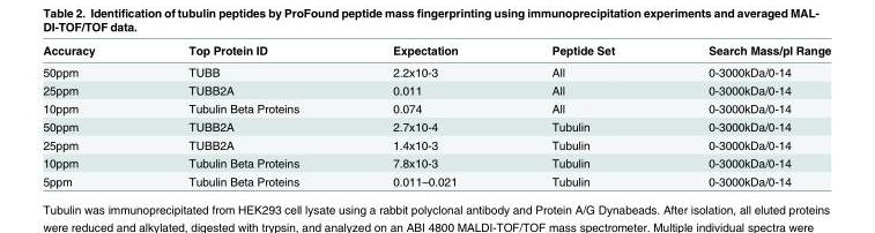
<table><thead><tr><td>Accuracy</td><td>Top Protein ID</td><td>Expectation</td><td>Peptide Set</td><td>Search Mass/pI Range</td></tr></thead><tbody><tr><td>50ppm</td><td>TUBB</td><td>2.2x10-3</td><td>All</td><td>0-3000kDa/0-14</td></tr><tr><td>25ppm</td><td>TUBB2A</td><td>0.011</td><td>All</td><td>0-3000kDa/0-14</td></tr><tr><td>10ppm</td><td>Tubulin Beta Proteins</td><td>0.074</td><td>All</td><td>0-3000kDa/0-14</td></tr><tr><td>50ppm</td><td>TUBB2A</td><td>2.7x10-4</td><td>Tubulin</td><td>0-3000kDa/0-14</td></tr><tr><td>25ppm</td><td>TUBB2A</td><td>1.4x10-3</td><td>Tubulin</td><td>0-3000kDa/0-14</td></tr><tr><td>10ppm</td><td>Tubulin Beta Proteins</td><td>7.8x10-3</td><td>Tubulin</td><td>0-3000kDa/0-14</td></tr><tr><td>5ppm</td><td>Tubulin Beta Proteins</td><td>0.011–0.021</td><td>Tubulin</td><td>0-3000kDa/0-14</td></tr></tbody></table>